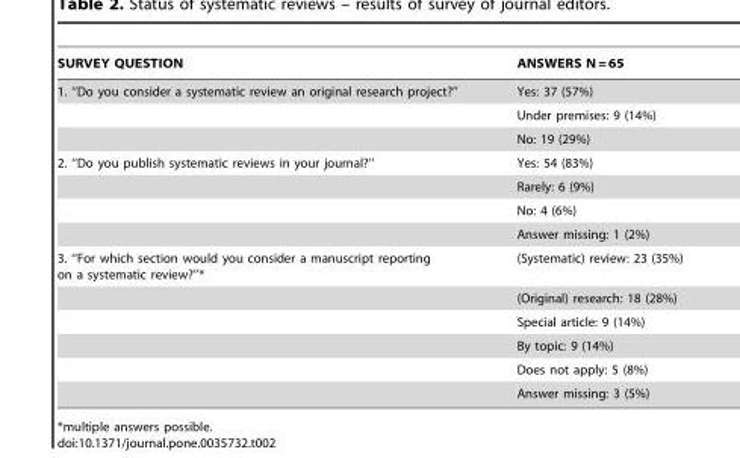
<table><thead><tr><td>SURVEY QUESTION</td><td>ANSWERS N = 65</td></tr></thead><tbody><tr><td rowspan="3">1. ‘‘Do you consider a systematic review an original research project?’’</td><td>Yes: 37 (57%)</td></tr><tr><td>Under premises: 9 (14%)</td></tr><tr><td>No: 19 (29%)</td></tr><tr><td rowspan="4">2. ‘‘Do you publish systematic reviews in your journal?’’</td><td>Yes: 54 (83%)</td></tr><tr><td>Rarely: 6 (9%)</td></tr><tr><td>No: 4 (6%)</td></tr><tr><td>Answer missing: 1 (2%)</td></tr><tr><td rowspan="6">3. ‘‘For which section would you consider a manuscript reporting on a systematic review?’’*</td><td>(Systematic) review: 23 (35%)</td></tr><tr><td>(Original) research: 18 (28%)</td></tr><tr><td>Special article: 9 (14%)</td></tr><tr><td>By topic: 9 (14%)</td></tr><tr><td>Does not apply: 5 (8%)</td></tr><tr><td>Answer missing: 3 (5%)</td></tr></tbody></table>